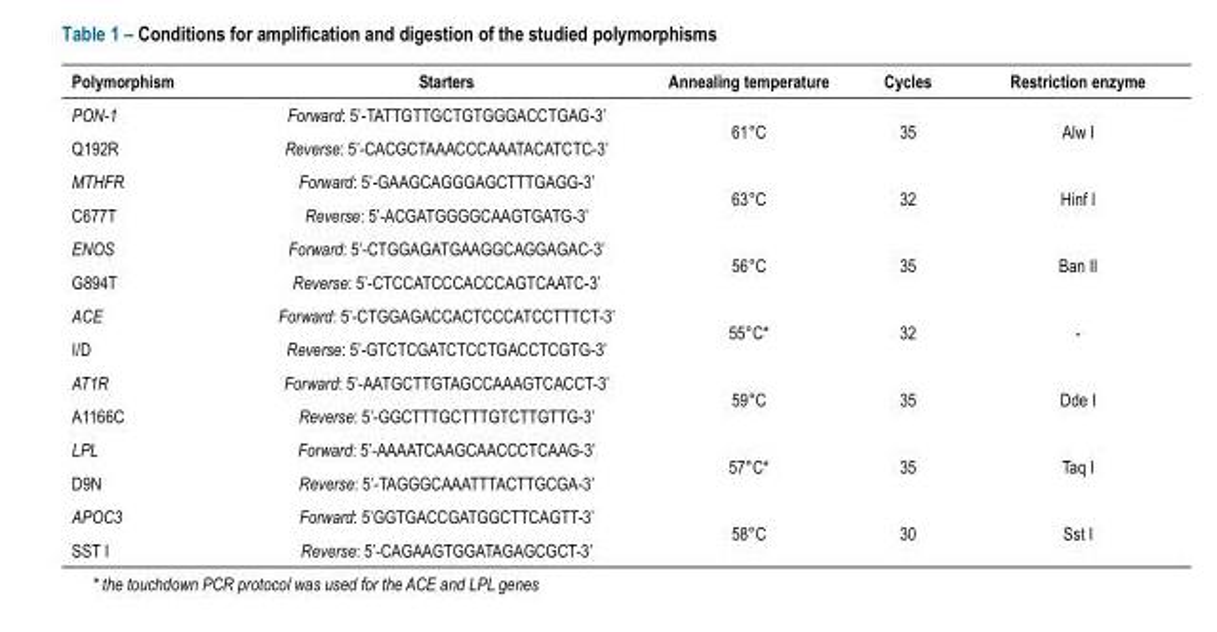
<table><thead><tr><td>Polymorphism</td><td>Starters</td><td>Annealing temperature</td><td>Cycles</td><td>Restriction enzyme</td></tr></thead><tbody><tr><td>PON-1</td><td>Forward: 5’-TATTGTTGCTGTGGGACCTGAG-3’</td><td rowspan="2">61°C</td><td rowspan="2">35</td><td rowspan="2">Alw I</td></tr><tr><td>Q192R</td><td>Reverse: 5’-CACGCTAAACCCAAATACATCTC-3’</td></tr><tr><td>MTHFR</td><td>Forward: 5’-GAAGCAGGGAGCTTTGAGG-3’</td><td rowspan="2">63°C</td><td rowspan="2">32</td><td rowspan="2">Hinf I</td></tr><tr><td>C677T</td><td>Reverse: 5’-ACGATGGGGCAAGTGATG-3’</td></tr><tr><td>ENOS</td><td>Forward: 5’-CTGGAGATGAAGGCAGGAGAC-3’</td><td rowspan="2">56°C</td><td rowspan="2">35</td><td rowspan="2">Ban II</td></tr><tr><td>G894T</td><td>Reverse: 5’-CTCCATCCCACCCAGTCAATC-3’</td></tr><tr><td>ACE</td><td>Forward: 5’-CTGGAGACCACTCCCATCCTTTCT-3’</td><td rowspan="2">55°C*</td><td rowspan="2">32</td><td rowspan="2">-</td></tr><tr><td>I/D</td><td>Reverse: 5’-GTCTCGATCTCCTGACCTCGTG-3’</td></tr><tr><td>AT1R</td><td>Forward: 5’-AATGCTTGTAGCCAAAGTCACCT-3’</td><td rowspan="2">59°C</td><td rowspan="2">35</td><td rowspan="2">Dde I</td></tr><tr><td>A1166C</td><td>Reverse: 5’-GGCTTTGCTTTGTCTTGTTG-3’</td></tr><tr><td>LPL</td><td>Forward: 5’-AAAATCAAGCAACCCTCAAG-3’</td><td rowspan="2">57°C*</td><td rowspan="2">35</td><td rowspan="2">Taq I</td></tr><tr><td>D9N</td><td>Reverse: 5’-TAGGGCAAATTTACTTGCGA-3’</td></tr><tr><td>APOC3</td><td>Forward: 5’GGTGACCGATGGCTTCAGTT-3’</td><td rowspan="2">58°C</td><td rowspan="2">30</td><td rowspan="2">Sst I</td></tr><tr><td>SST I</td><td>Reverse: 5’-CAGAAGTGGATAGAGCGCT-3’</td></tr></tbody></table>